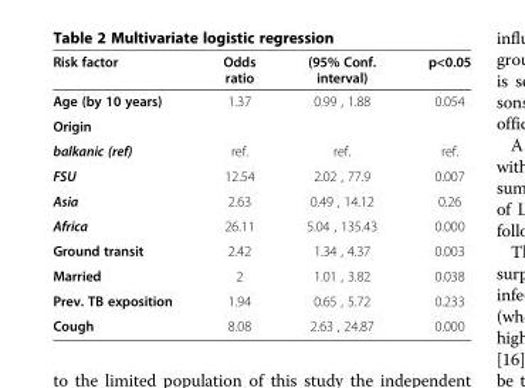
<table><thead><tr><td>Risk factor</td><td>Odds ratio</td><td>(95% Conf. interval)</td><td>p&lt;0.05</td></tr></thead><tbody><tr><td>Age (by 10 years)</td><td>1.37</td><td>0.99 , 1.88</td><td>0.054</td></tr><tr><td colspan="4">Origin</td></tr><tr><td>balkanic (ref)</td><td>ref.</td><td>ref.</td><td>ref.</td></tr><tr><td>FSU</td><td>12.54</td><td>2.02 , 77.9</td><td>0.007</td></tr><tr><td>Asia</td><td>2.63</td><td>0.49 , 14.12</td><td>0.26</td></tr><tr><td>Africa</td><td>26.11</td><td>5.04 , 135.43</td><td>0.000</td></tr><tr><td>Ground transit</td><td>2.42</td><td>1.34 , 4.37</td><td>0.003</td></tr><tr><td>Married</td><td>2</td><td>1.01 , 3.82</td><td>0.038</td></tr><tr><td>Prev. TB exposition</td><td>1.94</td><td>0.65 , 5.72</td><td>0.233</td></tr><tr><td>Cough</td><td>8.08</td><td>2.63 , 24.87</td><td>0.000</td></tr></tbody></table>